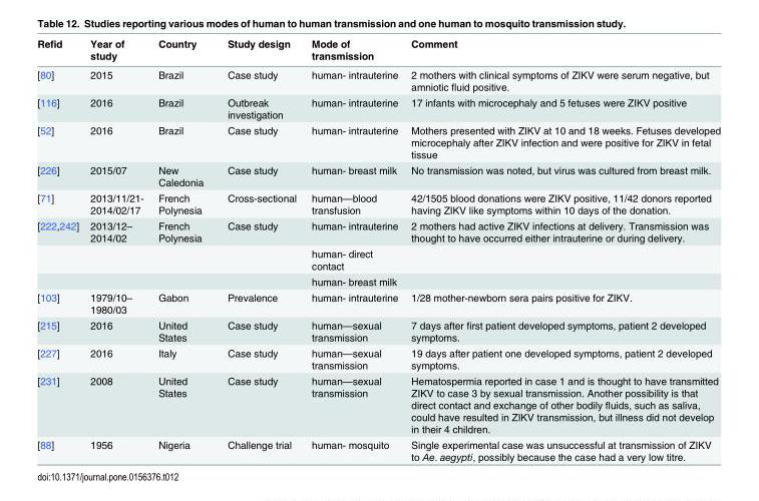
<table><thead><tr><td>Refid</td><td>Year of study</td><td>Country</td><td>Study design</td><td>Mode of transmission</td><td>Comment</td></tr></thead><tbody><tr><td>[80]</td><td>2015</td><td>Brazil</td><td>Case study</td><td>human- intrauterine</td><td>2 mothers with clinical symptoms of ZIKV were serum negative, but amniotic fluid positive.</td></tr><tr><td>[116]</td><td>2016</td><td>Brazil</td><td>Outbreak investigation</td><td>human- intrauterine</td><td>17 infants with microcephaly and 5 fetuses were ZIKV positive</td></tr><tr><td>[52]</td><td>2016</td><td>Brazil</td><td>Case study</td><td>human- intrauterine</td><td>Mothers presented with ZIKV at 10 and 18 weeks. Fetuses developed microcephaly after ZIKV infection and were positive for ZIKV in fetal tissue</td></tr><tr><td>[226]</td><td>2015/07</td><td>New Caledonia</td><td>Case study</td><td>human- breast milk</td><td>No transmission was noted, but virus was cultured from breast milk.</td></tr><tr><td>[71]</td><td>2013/11/21- 2014/02/17</td><td>French Polynesia</td><td>Cross-sectional</td><td>human—blood transfusion</td><td>42/1505 blood donations were ZIKV positive, 11/42 donors reported having ZIKV like symptoms within 10 days of the donation.</td></tr><tr><td rowspan="3">[222,242]</td><td>2013/12– 2014/02</td><td>French Polynesia</td><td>Case study</td><td>human- intrauterine</td><td>2 mothers had active ZIKV infections at delivery. Transmission was thought to have occurred either intrauterine or during delivery.</td></tr><tr><td></td><td></td><td></td><td>human- direct contact</td><td></td></tr><tr><td></td><td></td><td></td><td>human- breast milk</td><td></td></tr><tr><td>[103]</td><td>1979/10– 1980/03</td><td>Gabon</td><td>Prevalence</td><td>human- intrauterine</td><td>1/28 mother-newborn sera pairs positive for ZIKV.</td></tr><tr><td>[215]</td><td>2016</td><td>United States</td><td>Case study</td><td>human—sexual transmission</td><td>7 days after first patient developed symptoms, patient 2 developed symptoms.</td></tr><tr><td>[227]</td><td>2016</td><td>Italy</td><td>Case study</td><td>human—sexual transmission</td><td>19 days after patient one developed symptoms, patient 2 developed symptoms.</td></tr><tr><td>[231]</td><td>2008</td><td>United States</td><td>Case study</td><td>human—sexual transmission</td><td>Hematospermia reported in case 1 and is thought to have transmitted ZIKV to case 3 by sexual transmission. Another possibility is that direct contact and exchange of other bodily fluids, such as saliva, could have resulted in ZIKV transmission, but illness did not develop in their 4 children.</td></tr><tr><td>[88]</td><td>1956</td><td>Nigeria</td><td>Challenge trial</td><td>human- mosquito</td><td>Single experimental case was unsuccessful at transmission of ZIKV to Ae. aegypti, possibly because the case had a very low titre.</td></tr></tbody></table>